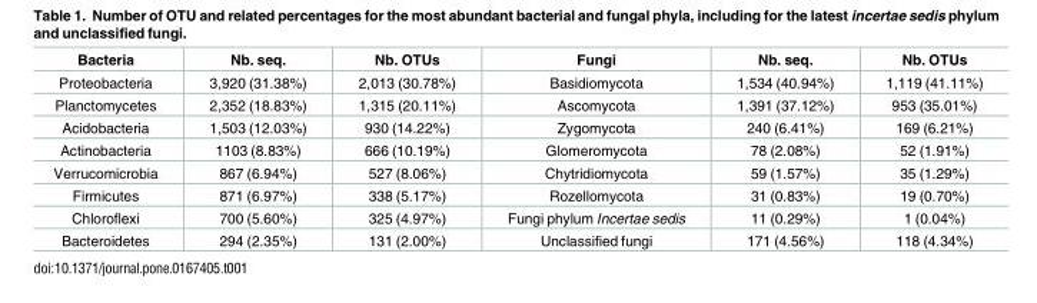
<table><thead><tr><td>Bacteria</td><td>Nb. seq.</td><td>Nb. OTUs</td><td>Fungi</td><td>Nb. seq.</td><td>Nb. OTUs</td></tr></thead><tbody><tr><td>Proteobacteria</td><td>3,920 (31.38%)</td><td>2,013 (30.78%)</td><td>Basidiomycota</td><td>1,534 (40.94%)</td><td>1,119 (41.11%)</td></tr><tr><td>Planctomycetes</td><td>2,352 (18.83%)</td><td>1,315 (20.11%)</td><td>Ascomycota</td><td>1,391 (37.12%)</td><td>953 (35.01%)</td></tr><tr><td>Acidobacteria</td><td>1,503 (12.03%)</td><td>930 (14.22%)</td><td>Zygomycota</td><td>240 (6.41%)</td><td>169 (6.21%)</td></tr><tr><td>Actinobacteria</td><td>1103 (8.83%)</td><td>666 (10.19%)</td><td>Glomeromycota</td><td>78 (2.08%)</td><td>52 (1.91%)</td></tr><tr><td>Verrucomicrobia</td><td>867 (6.94%)</td><td>527 (8.06%)</td><td>Chytridiomycota</td><td>59 (1.57%)</td><td>35 (1.29%)</td></tr><tr><td>Firmicutes</td><td>871 (6.97%)</td><td>338 (5.17%)</td><td>Rozellomycota</td><td>31 (0.83%)</td><td>19 (0.70%)</td></tr><tr><td>Chloroflexi</td><td>700 (5.60%)</td><td>325 (4.97%)</td><td>Fungi phylum Incertae sedis</td><td>11 (0.29%)</td><td>1 (0.04%)</td></tr><tr><td>Bacteroidetes</td><td>294 (2.35%)</td><td>131 (2.00%)</td><td>Unclassified fungi</td><td>171 (4.56%)</td><td>118 (4.34%)</td></tr></tbody></table>